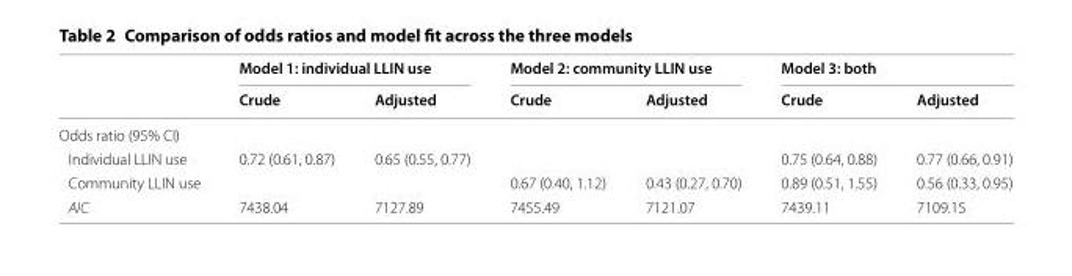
<table><thead><tr><td rowspan="2"></td><td colspan="2">Model 1: individual LLIN use</td><td colspan="2">Model 2: community LLIN use</td><td colspan="2">Model 3: both</td></tr><tr><td>Crude</td><td>Adjusted</td><td>Crude</td><td>Adjusted</td><td>Crude</td><td>Adjusted</td></tr></thead><tbody><tr><td colspan="7">Odds ratio (95% CI)</td></tr><tr><td>Individual LLIN use</td><td>0.72 (0.61, 0.87)</td><td>0.65 (0.55, 0.77)</td><td></td><td></td><td>0.75 (0.64, 0.88)</td><td>0.77 (0.66, 0.91)</td></tr><tr><td>Community LLIN use</td><td></td><td></td><td>0.67 (0.40, 1.12)</td><td>0.43 (0.27, 0.70)</td><td>0.89 (0.51, 1.55)</td><td>0.56 (0.33, 0.95)</td></tr><tr><td>AIC</td><td>7438.04</td><td>7127.89</td><td>7455.49</td><td>7121.07</td><td>7439.11</td><td>7109.15</td></tr></tbody></table>